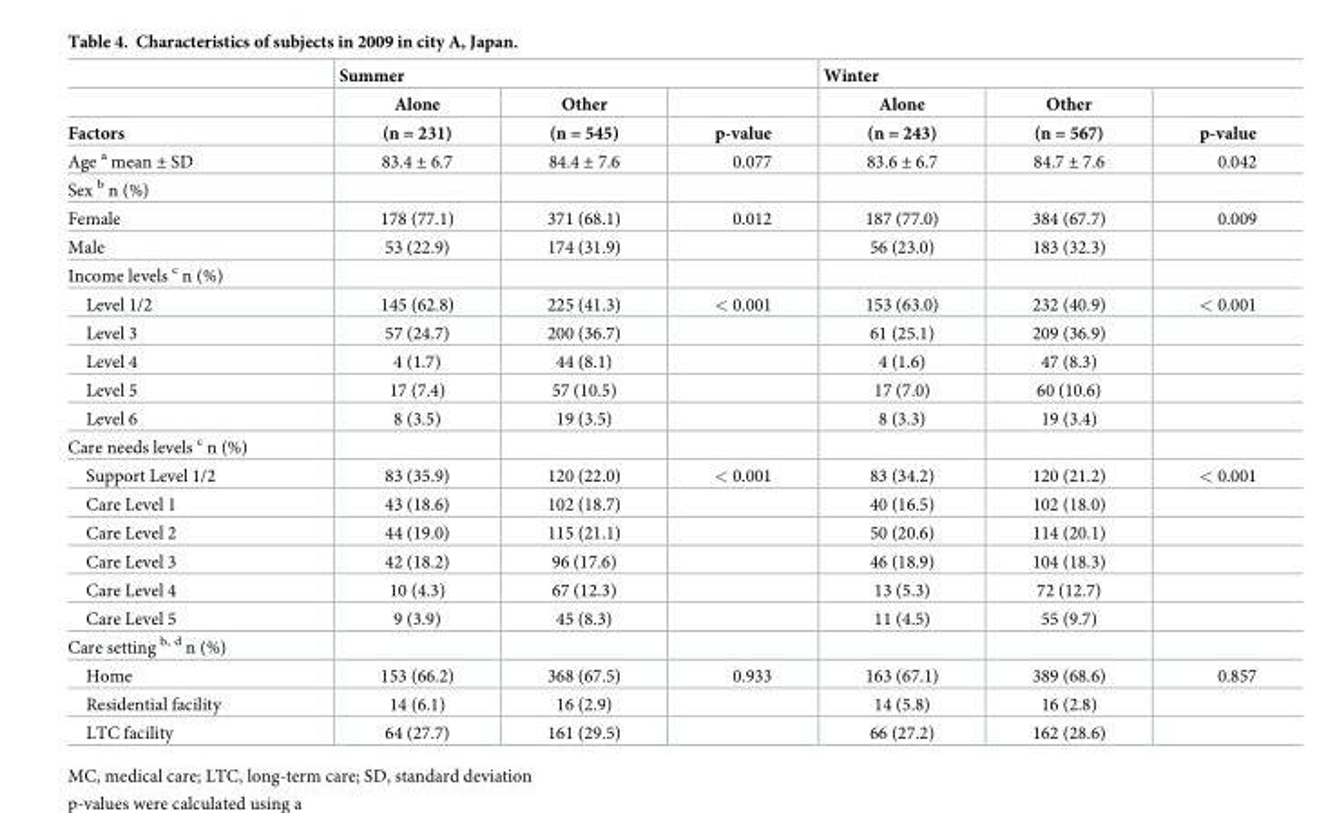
<table><thead><tr><td rowspan="3">Factors</td><td colspan="3">Summer</td><td colspan="3">Winter</td></tr><tr><td rowspan="2">Alone (n = 231)</td><td rowspan="2">Other (n = 545)</td><td rowspan="2">p-value</td><td rowspan="2">Alone (n = 243)</td><td rowspan="2">Other (n = 567)</td><td rowspan="2">p-value</td></tr><tr></tr></thead><tbody><tr><td>Age <sup>a</sup> mean ± SD</td><td>83.4 ± 6.7</td><td>84.4 ± 7.6</td><td>0.077</td><td>83.6 ± 6.7</td><td>84.7 ± 7.6</td><td>0.042</td></tr><tr><td colspan="7">Sex <sup>b</sup> n (%)</td></tr><tr><td>Female</td><td>178 (77.1)</td><td>371 (68.1)</td><td>0.012</td><td>187 (77.0)</td><td>384 (67.7)</td><td>0.009</td></tr><tr><td>Male</td><td>53 (22.9)</td><td>174 (31.9)</td><td></td><td>56 (23.0)</td><td>183 (32.3)</td><td></td></tr><tr><td colspan="7">Income levels <sup>c</sup> n (%)</td></tr><tr><td>Level 1/2</td><td>145 (62.8)</td><td>225 (41.3)</td><td>&lt; 0.001</td><td>153 (63.0)</td><td>232 (40.9)</td><td>&lt; 0.001</td></tr><tr><td>Level 3</td><td>57 (24.7)</td><td>200 (36.7)</td><td></td><td>61 (25.1)</td><td>209 (36.9)</td><td></td></tr><tr><td>Level 4</td><td>4 (1.7)</td><td>44 (8.1)</td><td></td><td>4 (1.6)</td><td>47 (8.3)</td><td></td></tr><tr><td>Level 5</td><td>17 (7.4)</td><td>57 (10.5)</td><td></td><td>17 (7.0)</td><td>60 (10.6)</td><td></td></tr><tr><td>Level 6</td><td>8 (3.5)</td><td>19 (3.5)</td><td></td><td>8 (3.3)</td><td>19 (3.4)</td><td></td></tr><tr><td colspan="7">Care needs levels <sup>c</sup> n (%)</td></tr><tr><td>Support Level 1/2</td><td>83 (35.9)</td><td>120 (22.0)</td><td>&lt; 0.001</td><td>83 (34.2)</td><td>120 (21.2)</td><td>&lt; 0.001</td></tr><tr><td>Care Level 1</td><td>43 (18.6)</td><td>102 (18.7)</td><td></td><td>40 (16.5)</td><td>102 (18.0)</td><td></td></tr><tr><td>Care Level 2</td><td>44 (19.0)</td><td>115 (21.1)</td><td></td><td>50 (20.6)</td><td>114 (20.1)</td><td></td></tr><tr><td>Care Level 3</td><td>42 (18.2)</td><td>96 (17.6)</td><td></td><td>46 (18.9)</td><td>104 (18.3)</td><td></td></tr><tr><td>Care Level 4</td><td>10 (4.3)</td><td>67 (12.3)</td><td></td><td>13 (5.3)</td><td>72 (12.7)</td><td></td></tr><tr><td>Care Level 5</td><td>9 (3.9)</td><td>45 (8.3)</td><td></td><td>11 (4.5)</td><td>55 (9.7)</td><td></td></tr><tr><td colspan="7">Care setting <sup>b, d</sup> n (%)</td></tr><tr><td>Home</td><td>153 (66.2)</td><td>368 (67.5)</td><td>0.933</td><td>163 (67.1)</td><td>389 (68.6)</td><td>0.857</td></tr><tr><td>Residential facility</td><td>14 (6.1)</td><td>16 (2.9)</td><td></td><td>14 (5.8)</td><td>16 (2.8)</td><td></td></tr><tr><td>LTC facility</td><td>64 (27.7)</td><td>161 (29.5)</td><td></td><td>66 (27.2)</td><td>162 (28.6)</td><td></td></tr></tbody></table>